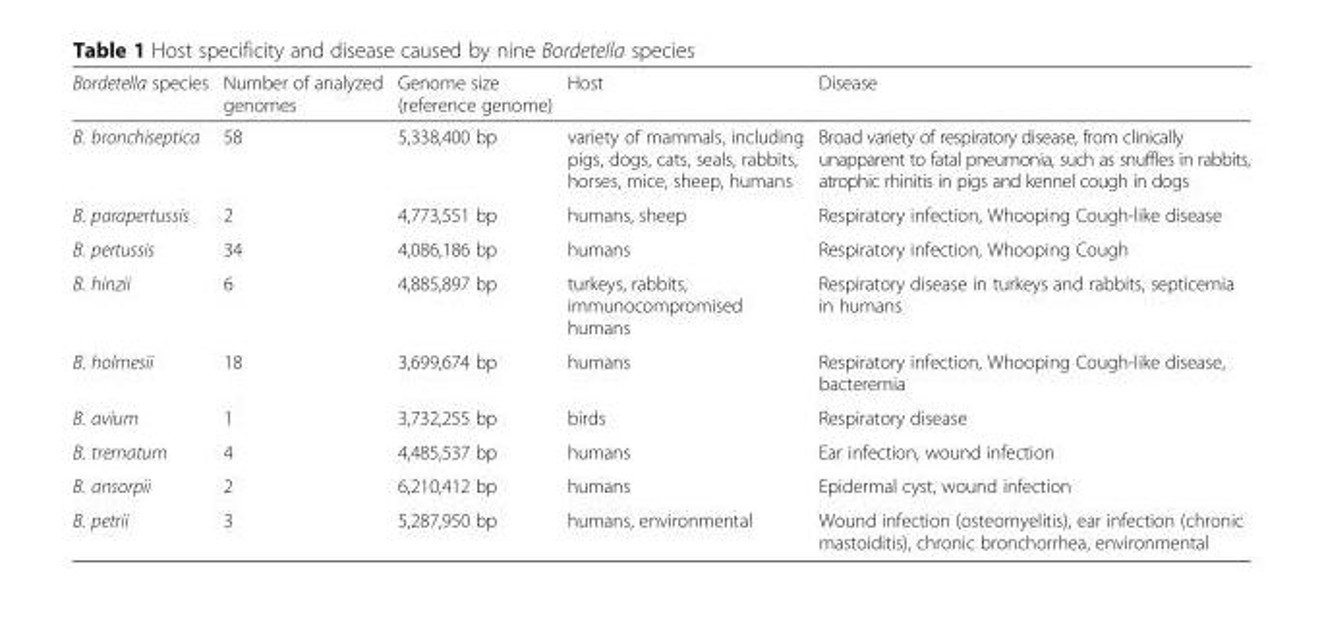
<table><thead><tr><td>Bordetella species</td><td>Number of analyzed genomes</td><td>Genome size (reference genome)</td><td>Host</td><td>Disease</td></tr></thead><tbody><tr><td>B. bronchiseptica</td><td>58</td><td>5,338,400 bp</td><td>variety of mammals, including pigs, dogs, cats, seals, rabbits, horses, mice, sheep, humans</td><td>Broad variety of respiratory disease, from clinically unapparent to fatal pneumonia, such as snuffles in rabbits, atrophic rhinitis in pigs and kennel cough in dogs</td></tr><tr><td>B. parapertussis</td><td>2</td><td>4,773,551 bp</td><td>humans, sheep</td><td>Respiratory infection, Whooping Cough-like disease</td></tr><tr><td>B. pertussis</td><td>34</td><td>4,086,186 bp</td><td>humans</td><td>Respiratory infection, Whooping Cough</td></tr><tr><td>B. hinzii</td><td>6</td><td>4,885,897 bp</td><td>turkeys, rabbits, immunocompromised humans</td><td>Respiratory disease in turkeys and rabbits, septicemia in humans</td></tr><tr><td>B. holmesii</td><td>18</td><td>3,699,674 bp</td><td>humans</td><td>Respiratory infection, Whooping Cough-like disease, bacteremia</td></tr><tr><td>B. avium</td><td>1</td><td>3,732,255 bp</td><td>birds</td><td>Respiratory disease</td></tr><tr><td>B. trematum</td><td>4</td><td>4,485,537 bp</td><td>humans</td><td>Ear infection, wound infection</td></tr><tr><td>B. ansorpii</td><td>2</td><td>6,210,412 bp</td><td>humans</td><td>Epidermal cyst, wound infection</td></tr><tr><td>B. petrii</td><td>3</td><td>5,287,950 bp</td><td>humans, environmental</td><td>Wound infection (osteomyelitis), ear infection (chronic mastoiditis), chronic bronchorrhea, environmental</td></tr></tbody></table>